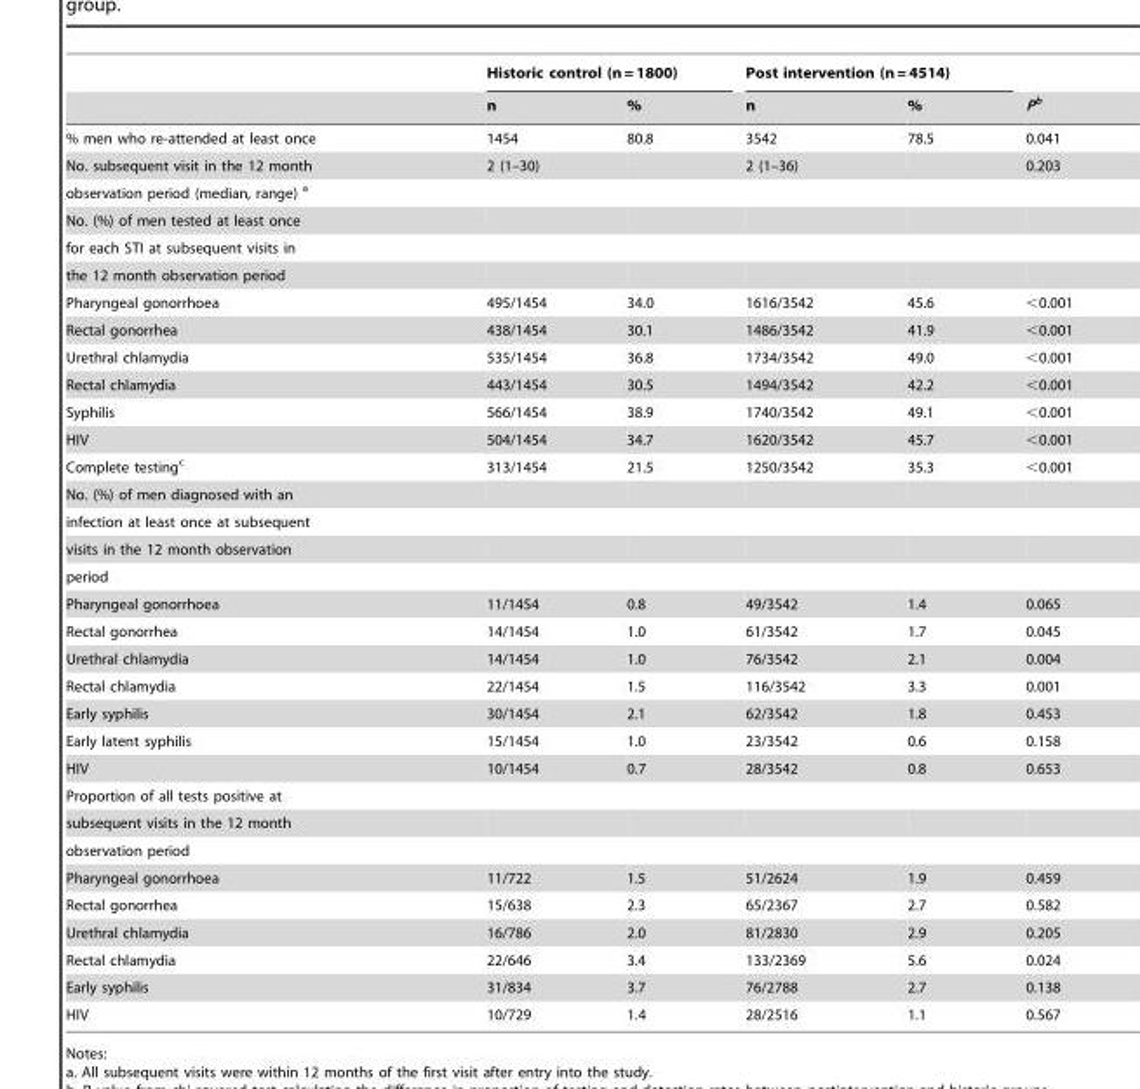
<table><thead><tr><td rowspan="2"></td><td colspan="2">Historic control (n = 1800)</td><td colspan="2">Post intervention (n = 4514)</td><td rowspan="2">P<sup>b</sup></td></tr><tr><td>n</td><td>%</td><td>n</td><td>%</td></tr></thead><tbody><tr><td>% men who re-attended at least once</td><td>1454</td><td>80.8</td><td>3542</td><td>78.5</td><td>0.041</td></tr><tr><td>No. subsequent visit in the 12 month</td><td>2 (1–30)</td><td></td><td>2 (1–36)</td><td></td><td>0.203</td></tr><tr><td colspan="6">observation period (median, range) <sup>a</sup></td></tr><tr><td colspan="6">No. (%) of men tested at least once</td></tr><tr><td colspan="6">for each STI at subsequent visits in</td></tr><tr><td colspan="6">the 12 month observation period</td></tr><tr><td>Pharyngeal gonorrhoea</td><td>495/1454</td><td>34.0</td><td>1616/3542</td><td>45.6</td><td>&lt;0.001</td></tr><tr><td>Rectal gonorrhea</td><td>438/1454</td><td>30.1</td><td>1486/3542</td><td>41.9</td><td>&lt;0.001</td></tr><tr><td>Urethral chlamydia</td><td>535/1454</td><td>36.8</td><td>1734/3542</td><td>49.0</td><td>&lt;0.001</td></tr><tr><td>Rectal chlamydia</td><td>443/1454</td><td>30.5</td><td>1494/3542</td><td>42.2</td><td>&lt;0.001</td></tr><tr><td>Syphilis</td><td>566/1454</td><td>38.9</td><td>1740/3542</td><td>49.1</td><td>&lt;0.001</td></tr><tr><td>HIV</td><td>504/1454</td><td>34.7</td><td>1620/3542</td><td>45.7</td><td>&lt;0.001</td></tr><tr><td>Complete testing<sup>c</sup></td><td>313/1454</td><td>21.5</td><td>1250/3542</td><td>35.3</td><td>&lt;0.001</td></tr><tr><td colspan="6">No. (%) of men diagnosed with an</td></tr><tr><td colspan="6">infection at least once at subsequent</td></tr><tr><td colspan="6">visits in the 12 month observation</td></tr><tr><td colspan="6">period</td></tr><tr><td>Pharyngeal gonorrhoea</td><td>11/1454</td><td>0.8</td><td>49/3542</td><td>1.4</td><td>0.065</td></tr><tr><td>Rectal gonorrhea</td><td>14/1454</td><td>1.0</td><td>61/3542</td><td>1.7</td><td>0.045</td></tr><tr><td>Urethral chlamydia</td><td>14/1454</td><td>1.0</td><td>76/3542</td><td>2.1</td><td>0.004</td></tr><tr><td>Rectal chlamydia</td><td>22/1454</td><td>1.5</td><td>116/3542</td><td>3.3</td><td>0.001</td></tr><tr><td>Early syphilis</td><td>30/1454</td><td>2.1</td><td>62/3542</td><td>1.8</td><td>0.453</td></tr><tr><td>Early latent syphilis</td><td>15/1454</td><td>1.0</td><td>23/3542</td><td>0.6</td><td>0.158</td></tr><tr><td>HIV</td><td>10/1454</td><td>0.7</td><td>28/3542</td><td>0.8</td><td>0.653</td></tr><tr><td colspan="6">Proportion of all tests positive at</td></tr><tr><td colspan="6">subsequent visits in the 12 month</td></tr><tr><td colspan="6">observation period</td></tr><tr><td>Pharyngeal gonorrhoea</td><td>11/722</td><td>1.5</td><td>51/2624</td><td>1.9</td><td>0.459</td></tr><tr><td>Rectal gonorrhea</td><td>15/638</td><td>2.3</td><td>65/2367</td><td>2.7</td><td>0.582</td></tr><tr><td>Urethral chlamydia</td><td>16/786</td><td>2.0</td><td>81/2830</td><td>2.9</td><td>0.205</td></tr><tr><td>Rectal chlamydia</td><td>22/646</td><td>3.4</td><td>133/2369</td><td>5.6</td><td>0.024</td></tr><tr><td>Early syphilis</td><td>31/834</td><td>3.7</td><td>76/2788</td><td>2.7</td><td>0.138</td></tr><tr><td>HIV</td><td>10/729</td><td>1.4</td><td>28/2516</td><td>1.1</td><td>0.567</td></tr></tbody></table>